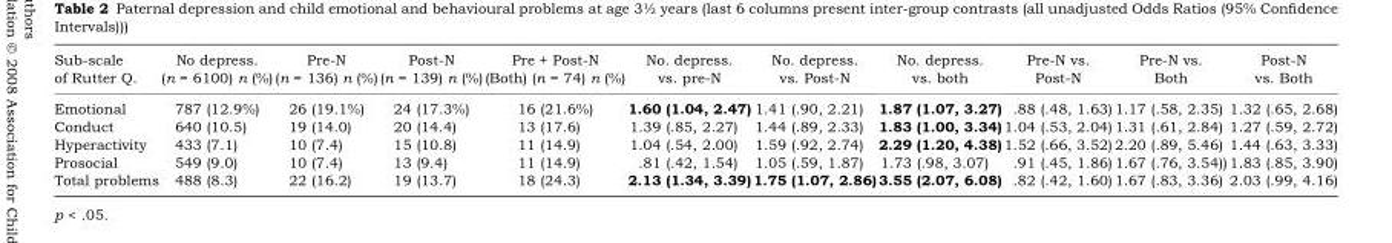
<table><thead><tr><td>Sub-scale of Rutter Q.</td><td>No depress. (n = 6100) n (%)</td><td>Pre-N (n = 136) n (%)</td><td>Post-N (n = 139) n (%)</td><td>Pre + Post-N (Both) (n = 74) n (%)</td><td>No. depress. vs. pre-N</td><td>No. depress. vs. Post-N</td><td>No. depress. vs. both</td><td>Pre-N vs. Post-N</td><td>Pre-N vs. Both</td><td>Post-N vs. Both</td></tr></thead><tbody><tr><td>Emotional</td><td>787 (12.9%)</td><td>26 (19.1%)</td><td>24 (17.3%)</td><td>16 (21.6%)</td><td>1.60 (1.04, 2.47)</td><td>1.41 (.90, 2.21)</td><td>1.87 (1.07, 3.27)</td><td>.88 (.48, 1.63)</td><td>1.17 (.58, 2.35)</td><td>1.32 (.65, 2.68)</td></tr><tr><td>Conduct</td><td>640 (10.5)</td><td>19 (14.0)</td><td>20 (14.4)</td><td>13 (17.6)</td><td>1.39 (.85, 2.27)</td><td>1.44 (.89, 2.33)</td><td>1.83 (1.00, 3.34)</td><td>1.04 (.53, 2.04)</td><td>1.31 (.61, 2.84)</td><td>1.27 (.59, 2.72)</td></tr><tr><td>Hyperactivity</td><td>433 (7.1)</td><td>10 (7.4)</td><td>15 (10.8)</td><td>11 (14.9)</td><td>1.04 (.54, 2.00)</td><td>1.59 (.92, 2.74)</td><td>2.29 (1.20, 4.38)</td><td>1.52 (.66, 3.52)</td><td>2.20 (.89, 5.46)</td><td>1.44 (.63, 3.33)</td></tr><tr><td>Prosocial</td><td>549 (9.0)</td><td>10 (7.4)</td><td>13 (9.4)</td><td>11 (14.9)</td><td>.81 (.42, 1.54)</td><td>1.05 (.59, 1.87)</td><td>1.73 (.98, 3.07)</td><td>.91 (.45, 1.86)</td><td>1.67 (.76, 3.54))</td><td>1.83 (.85, 3.90)</td></tr><tr><td>Total problems</td><td>488 (8.3)</td><td>22 (16.2)</td><td>19 (13.7)</td><td>18 (24.3)</td><td>2.13 (1.34, 3.39)</td><td>1.75 (1.07, 2.86)</td><td>3.55 (2.07, 6.08)</td><td>.82 (.42, 1.60)</td><td>1.67 (.83, 3.36)</td><td>2.03 (.99, 4.16)</td></tr></tbody></table>